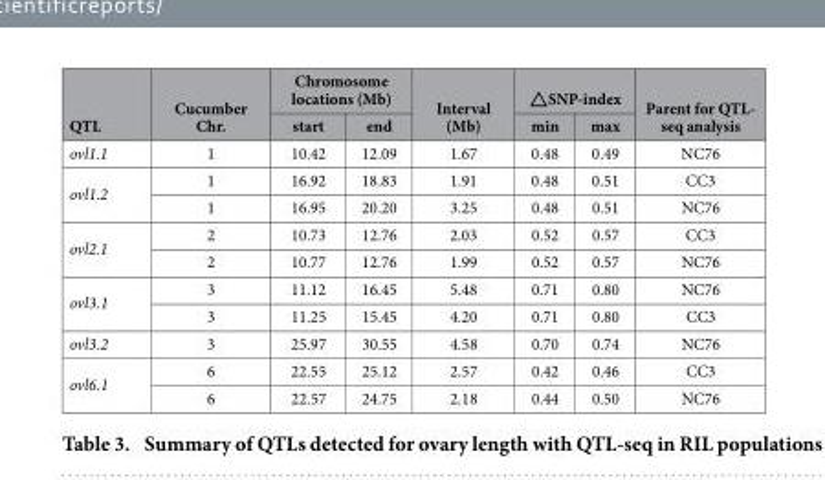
<table><thead><tr><td rowspan="2">QTL</td><td rowspan="2">Cucumber Chr.</td><td colspan="2">Chromosome locations (Mb)</td><td rowspan="2">Interval (Mb)</td><td colspan="2">△SNP-index</td><td rowspan="2">Parent for QTL- seq analysis</td></tr><tr><td>start</td><td>end</td><td>min</td><td>max</td></tr></thead><tbody><tr><td>ovl1.1</td><td>1</td><td>10.42</td><td>12.09</td><td>1.67</td><td>0.48</td><td>0.49</td><td>NC76</td></tr><tr><td rowspan="2">ovl1.2</td><td>1</td><td>16.92</td><td>18.83</td><td>1.91</td><td>0.48</td><td>0.51</td><td>CC3</td></tr><tr><td>1</td><td>16.95</td><td>20.20</td><td>3.25</td><td>0.48</td><td>0.51</td><td>NC76</td></tr><tr><td rowspan="2">ovl2.1</td><td>2</td><td>10.73</td><td>12.76</td><td>2.03</td><td>0.52</td><td>0.57</td><td>CC3</td></tr><tr><td>2</td><td>10.77</td><td>12.76</td><td>1.99</td><td>0.52</td><td>0.57</td><td>NC76</td></tr><tr><td rowspan="2">ovl3.1</td><td>3</td><td>11.12</td><td>16.45</td><td>5.48</td><td>0.71</td><td>0.80</td><td>NC76</td></tr><tr><td>3</td><td>11.25</td><td>15.45</td><td>4.20</td><td>0.71</td><td>0.80</td><td>CC3</td></tr><tr><td>ovl3.2</td><td>3</td><td>25.97</td><td>30.55</td><td>4.58</td><td>0.70</td><td>0.74</td><td>NC76</td></tr><tr><td rowspan="2">ovl6.1</td><td>6</td><td>22.55</td><td>25.12</td><td>2.57</td><td>0.42</td><td>0.46</td><td>CC3</td></tr><tr><td>6</td><td>22.57</td><td>24.75</td><td>2.18</td><td>0.44</td><td>0.50</td><td>NC76</td></tr></tbody></table>